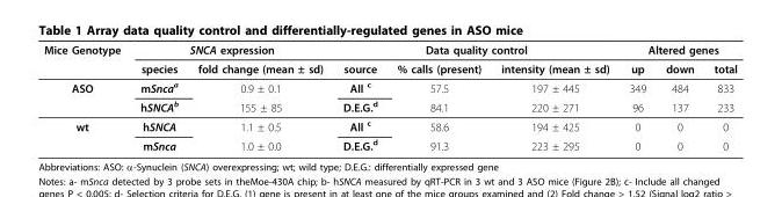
<table><thead><tr><td rowspan="2">Mice Genotype</td><td colspan="2">SNCA expression</td><td colspan="3">Data quality control</td><td colspan="3">Altered genes</td></tr><tr><td>species</td><td>fold change (mean ± sd)</td><td>source</td><td>% calls (present)</td><td>intensity (mean ± sd)</td><td>up</td><td>down</td><td>total</td></tr></thead><tbody><tr><td rowspan="2">ASO</td><td>mSnca<sup>a</sup></td><td>0.9 ± 0.1</td><td>All <sup>c</sup></td><td>57.5</td><td>197 ± 445</td><td>349</td><td>484</td><td>833</td></tr><tr><td>hSNCA<sup>b</sup></td><td>155 ± 85</td><td>D.E.G.<sup>d</sup></td><td>84.1</td><td>220 ± 271</td><td>96</td><td>137</td><td>233</td></tr><tr><td rowspan="2">wt</td><td>hSNCA</td><td>1.1 ± 0.5</td><td>All <sup>c</sup></td><td>58.6</td><td>194 ± 425</td><td>0</td><td>0</td><td>0</td></tr><tr><td>mSnca</td><td>1.0 ± 0.0</td><td>D.E.G.<sup>d</sup></td><td>91.3</td><td>223 ± 295</td><td>0</td><td>0</td><td>0</td></tr></tbody></table>